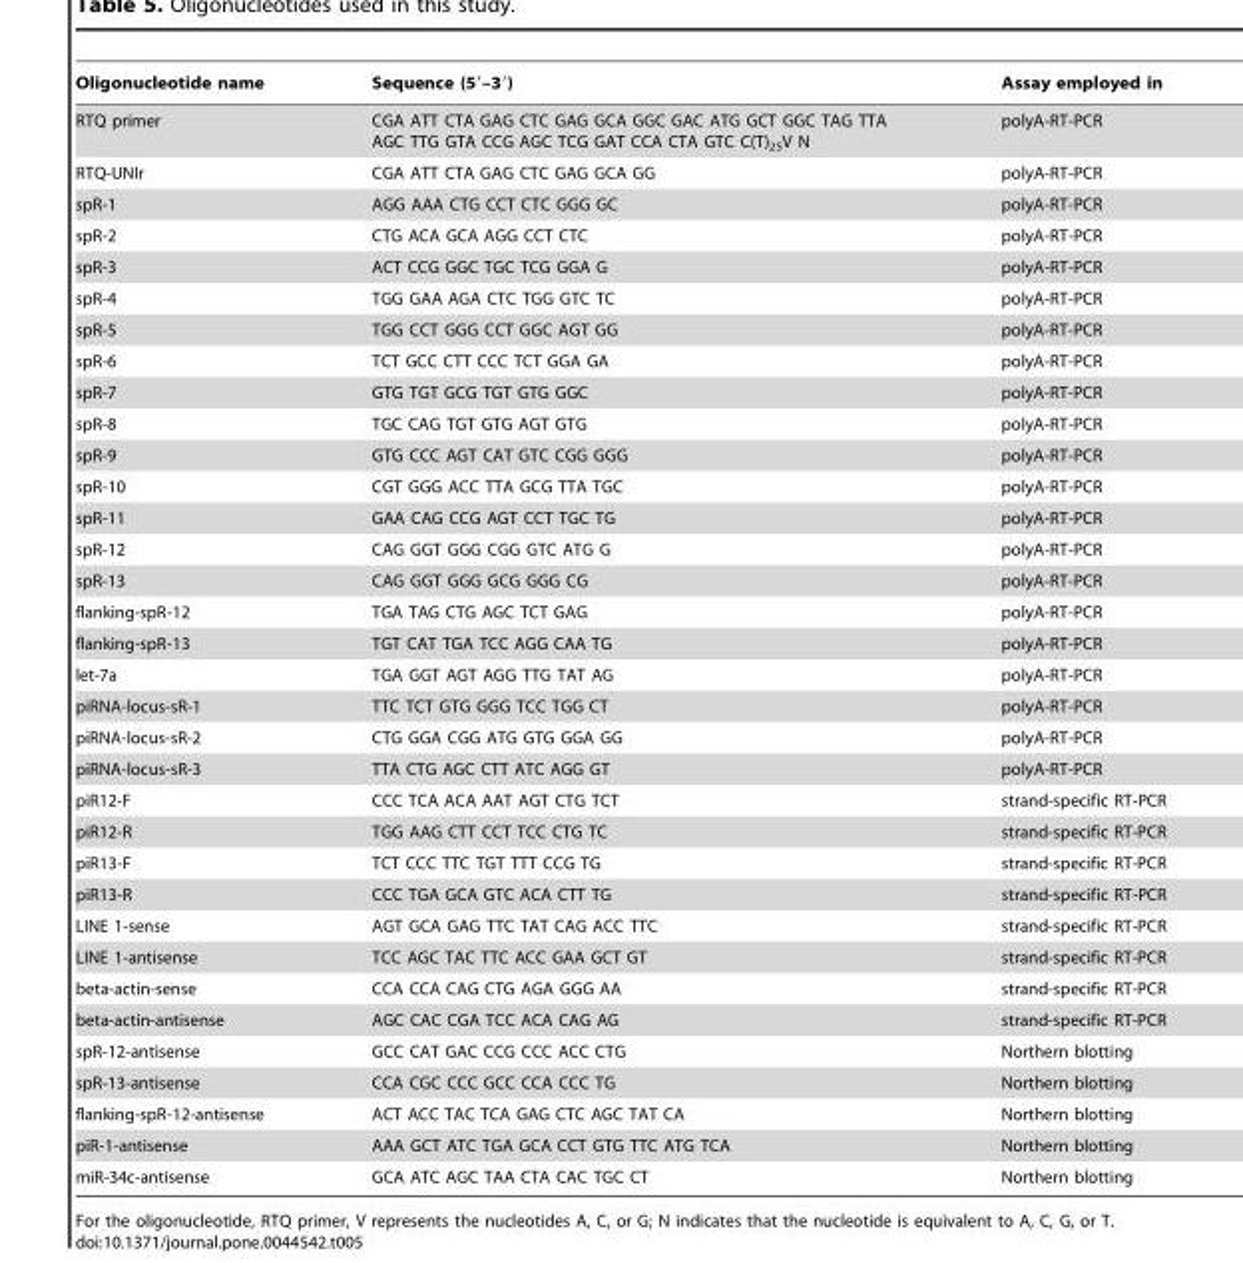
<table><thead><tr><td>Oligonucleotide name</td><td>Sequence (5′–3′)</td><td>Assay employed in</td></tr></thead><tbody><tr><td>RTQ primer</td><td>CGA ATT CTA GAG CTC GAG GCA GGC GAC ATG GCT GGC TAG TTA AGC TTG GTA CCG AGC TCG GAT CCA CTA GTC C(T)<sub>25</sub>V N</td><td>polyA-RT-PCR</td></tr><tr><td>RTQ-UNIr</td><td>CGA ATT CTA GAG CTC GAG GCA GG</td><td>polyA-RT-PCR</td></tr><tr><td>spR-1</td><td>AGG AAA CTG CCT CTC GGG GC</td><td>polyA-RT-PCR</td></tr><tr><td>spR-2</td><td>CTG ACA GCA AGG CCT CTC</td><td>polyA-RT-PCR</td></tr><tr><td>spR-3</td><td>ACT CCG GGC TGC TCG GGA G</td><td>polyA-RT-PCR</td></tr><tr><td>spR-4</td><td>TGG GAA AGA CTC TGG GTC TC</td><td>polyA-RT-PCR</td></tr><tr><td>spR-5</td><td>TGG CCT GGG CCT GGC AGT GG</td><td>polyA-RT-PCR</td></tr><tr><td>spR-6</td><td>TCT GCC CTT CCC TCT GGA GA</td><td>polyA-RT-PCR</td></tr><tr><td>spR-7</td><td>GTG TGT GCG TGT GTG GGC</td><td>polyA-RT-PCR</td></tr><tr><td>spR-8</td><td>TGC CAG TGT GTG AGT GTG</td><td>polyA-RT-PCR</td></tr><tr><td>spR-9</td><td>GTG CCC AGT CAT GTC CGG GGG</td><td>polyA-RT-PCR</td></tr><tr><td>spR-10</td><td>CGT GGG ACC TTA GCG TTA TGC</td><td>polyA-RT-PCR</td></tr><tr><td>spR-11</td><td>GAA CAG CCG AGT CCT TGC TG</td><td>polyA-RT-PCR</td></tr><tr><td>spR-12</td><td>CAG GGT GGG CGG GTC ATG G</td><td>polyA-RT-PCR</td></tr><tr><td>spR-13</td><td>CAG GGT GGG GCG GGG CG</td><td>polyA-RT-PCR</td></tr><tr><td>flanking-spR-12</td><td>TGA TAG CTG AGC TCT GAG</td><td>polyA-RT-PCR</td></tr><tr><td>flanking-spR-13</td><td>TGT CAT TGA TCC AGG CAA TG</td><td>polyA-RT-PCR</td></tr><tr><td>let-7a</td><td>TGA GGT AGT AGG TTG TAT AG</td><td>polyA-RT-PCR</td></tr><tr><td>piRNA-locus-sR-1</td><td>TTC TCT GTG GGG TCC TGG CT</td><td>polyA-RT-PCR</td></tr><tr><td>piRNA-locus-sR-2</td><td>CTG GGA CGG ATG GTG GGA GG</td><td>polyA-RT-PCR</td></tr><tr><td>piRNA-locus-sR-3</td><td>TTA CTG AGC CTT ATC AGG GT</td><td>polyA-RT-PCR</td></tr><tr><td>piR12-F</td><td>CCC TCA ACA AAT AGT CTG TCT</td><td>strand-specific RT-PCR</td></tr><tr><td>piR12-R</td><td>TGG AAG CTT CCT TCC CTG TC</td><td>strand-specific RT-PCR</td></tr><tr><td>piR13-F</td><td>TCT CCC TTC TGT TTT CCG TG</td><td>strand-specific RT-PCR</td></tr><tr><td>piR13-R</td><td>CCC TGA GCA GTC ACA CTT TG</td><td>strand-specific RT-PCR</td></tr><tr><td>LINE 1-sense</td><td>AGT GCA GAG TTC TAT CAG ACC TTC</td><td>strand-specific RT-PCR</td></tr><tr><td>LINE 1-antisense</td><td>TCC AGC TAC TTC ACC GAA GCT GT</td><td>strand-specific RT-PCR</td></tr><tr><td>beta-actin-sense</td><td>CCA CCA CAG CTG AGA GGG AA</td><td>strand-specific RT-PCR</td></tr><tr><td>beta-actin-antisense</td><td>AGC CAC CGA TCC ACA CAG AG</td><td>strand-specific RT-PCR</td></tr><tr><td>spR-12-antisense</td><td>GCC CAT GAC CCG CCC ACC CTG</td><td>Northern blotting</td></tr><tr><td>spR-13-antisense</td><td>CCA CGC CCC GCC CCA CCC TG</td><td>Northern blotting</td></tr><tr><td>flanking-spR-12-antisense</td><td>ACT ACC TAC TCA GAG CTC AGC TAT CA</td><td>Northern blotting</td></tr><tr><td>piR-1-antisense</td><td>AAA GCT ATC TGA GCA CCT GTG TTC ATG TCA</td><td>Northern blotting</td></tr><tr><td>miR-34c-antisense</td><td>GCA ATC AGC TAA CTA CAC TGC CT</td><td>Northern blotting</td></tr></tbody></table>